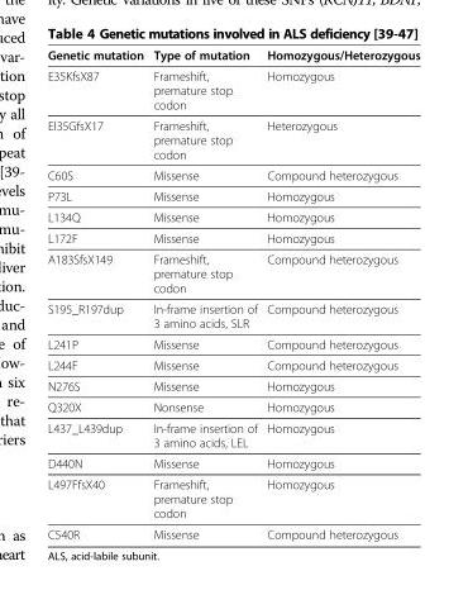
<table><thead><tr><td>Genetic mutation</td><td>Type of mutation</td><td>Homozygous/Heterozygous</td></tr></thead><tbody><tr><td>E35KfsX87</td><td>Frameshift, premature stop codon</td><td>Homozygous</td></tr><tr><td>El35GfsX17</td><td>Frameshift, premature stop codon</td><td>Heterozygous</td></tr><tr><td>C60S</td><td>Missense</td><td>Compound heterozygous</td></tr><tr><td>P73L</td><td>Missense</td><td>Homozygous</td></tr><tr><td>L134Q</td><td>Missense</td><td>Homozygous</td></tr><tr><td>L172F</td><td>Missense</td><td>Homozygous</td></tr><tr><td>A183SfsX149</td><td>Frameshift, premature stop codon</td><td>Compound heterozygous</td></tr><tr><td>S195_R197dup</td><td>In-frame insertion of 3 amino acids, SLR</td><td>Compound heterozygous</td></tr><tr><td>L241P</td><td>Missense</td><td>Compound heterozygous</td></tr><tr><td>L244F</td><td>Missense</td><td>Compound heterozygous</td></tr><tr><td>N276S</td><td>Missense</td><td>Homozygous</td></tr><tr><td>Q320X</td><td>Nonsense</td><td>Homozygous</td></tr><tr><td>L437_L439dup</td><td>In-frame insertion of 3 amino acids, LEL</td><td>Homozygous</td></tr><tr><td>D440N</td><td>Missense</td><td>Homozygous</td></tr><tr><td>L497FfsX40</td><td>Frameshift, premature stop codon</td><td>Homozygous</td></tr><tr><td>C540R</td><td>Missense</td><td>Compound heterozygous</td></tr></tbody></table>